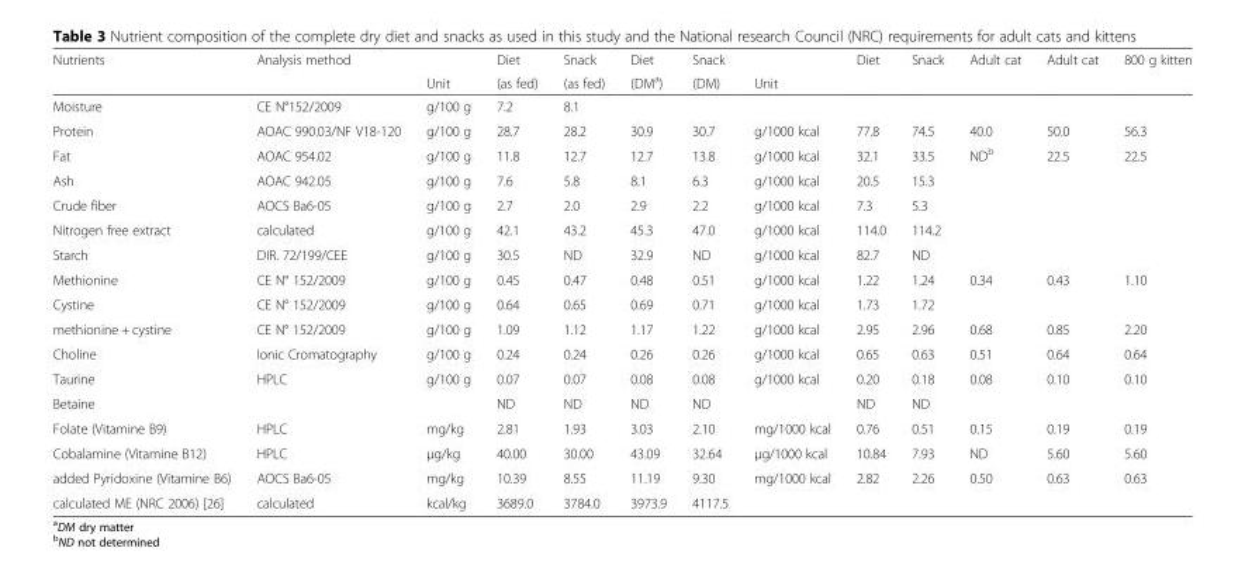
<table><thead><tr><td rowspan="2">Nutrients</td><td rowspan="2">Analysis method</td><td rowspan="2">Unit</td><td rowspan="2">Diet (as fed)</td><td rowspan="2">Snack (as fed)</td><td rowspan="2">Diet (DM<sup>a</sup>)</td><td rowspan="2">Snack (DM)</td><td rowspan="2">Unit</td><td rowspan="2">Diet</td><td rowspan="2">Snack</td><td rowspan="2">Adult cat</td><td rowspan="2">Adult cat</td><td rowspan="2">800 g kitten</td></tr><tr></tr></thead><tbody><tr><td>Moisture</td><td>CE N°152/2009</td><td>g/100 g</td><td>7.2</td><td>8.1</td><td></td><td></td><td></td><td></td><td></td><td></td><td></td><td></td></tr><tr><td>Protein</td><td>AOAC 990.03/NF V18-120</td><td>g/100 g</td><td>28.7</td><td>28.2</td><td>30.9</td><td>30.7</td><td>g/1000 kcal</td><td>77.8</td><td>74.5</td><td>40.0</td><td>50.0</td><td>56.3</td></tr><tr><td>Fat</td><td>AOAC 954.02</td><td>g/100 g</td><td>11.8</td><td>12.7</td><td>12.7</td><td>13.8</td><td>g/1000 kcal</td><td>32.1</td><td>33.5</td><td>ND<sup>b</sup></td><td>22.5</td><td>22.5</td></tr><tr><td>Ash</td><td>AOAC 942.05</td><td>g/100 g</td><td>7.6</td><td>5.8</td><td>8.1</td><td>6.3</td><td>g/1000 kcal</td><td>20.5</td><td>15.3</td><td></td><td></td><td></td></tr><tr><td>Crude fiber</td><td>AOCS Ba6-05</td><td>g/100 g</td><td>2.7</td><td>2.0</td><td>2.9</td><td>2.2</td><td>g/1000 kcal</td><td>7.3</td><td>5.3</td><td></td><td></td><td></td></tr><tr><td>Nitrogen free extract</td><td>calculated</td><td>g/100 g</td><td>42.1</td><td>43.2</td><td>45.3</td><td>47.0</td><td>g/1000 kcal</td><td>114.0</td><td>114.2</td><td></td><td></td><td></td></tr><tr><td>Starch</td><td>DIR. 72/199/CEE</td><td>g/100 g</td><td>30.5</td><td>ND</td><td>32.9</td><td>ND</td><td>g/1000 kcal</td><td>82.7</td><td>ND</td><td></td><td></td><td></td></tr><tr><td>Methionine</td><td>CE N° 152/2009</td><td>g/100 g</td><td>0.45</td><td>0.47</td><td>0.48</td><td>0.51</td><td>g/1000 kcal</td><td>1.22</td><td>1.24</td><td>0.34</td><td>0.43</td><td>1.10</td></tr><tr><td>Cystine</td><td>CE N° 152/2009</td><td>g/100 g</td><td>0.64</td><td>0.65</td><td>0.69</td><td>0.71</td><td>g/1000 kcal</td><td>1.73</td><td>1.72</td><td></td><td></td><td></td></tr><tr><td>methionine + cystine</td><td>CE N° 152/2009</td><td>g/100 g</td><td>1.09</td><td>1.12</td><td>1.17</td><td>1.22</td><td>g/1000 kcal</td><td>2.95</td><td>2.96</td><td>0.68</td><td>0.85</td><td>2.20</td></tr><tr><td>Choline</td><td>Ionic Cromatography</td><td>g/100 g</td><td>0.24</td><td>0.24</td><td>0.26</td><td>0.26</td><td>g/1000 kcal</td><td>0.65</td><td>0.63</td><td>0.51</td><td>0.64</td><td>0.64</td></tr><tr><td>Taurine</td><td>HPLC</td><td>g/100 g</td><td>0.07</td><td>0.07</td><td>0.08</td><td>0.08</td><td>g/1000 kcal</td><td>0.20</td><td>0.18</td><td>0.08</td><td>0.10</td><td>0.10</td></tr><tr><td>Betaine</td><td></td><td></td><td>ND</td><td>ND</td><td>ND</td><td>ND</td><td></td><td>ND</td><td>ND</td><td></td><td></td><td></td></tr><tr><td>Folate (Vitamine B9)</td><td>HPLC</td><td>mg/kg</td><td>2.81</td><td>1.93</td><td>3.03</td><td>2.10</td><td>mg/1000 kcal</td><td>0.76</td><td>0.51</td><td>0.15</td><td>0.19</td><td>0.19</td></tr><tr><td>Cobalamine (Vitamine B12)</td><td>HPLC</td><td>μg/kg</td><td>40.00</td><td>30.00</td><td>43.09</td><td>32.64</td><td>μg/1000 kcal</td><td>10.84</td><td>7.93</td><td>ND</td><td>5.60</td><td>5.60</td></tr><tr><td>added Pyridoxine (Vitamine B6)</td><td>AOCS Ba6-05</td><td>mg/kg</td><td>10.39</td><td>8.55</td><td>11.19</td><td>9.30</td><td>mg/1000 kcal</td><td>2.82</td><td>2.26</td><td>0.50</td><td>0.63</td><td>0.63</td></tr><tr><td>calculated ME (NRC 2006) [26]</td><td>calculated</td><td>kcal/kg</td><td>3689.0</td><td>3784.0</td><td>3973.9</td><td>4117.5</td><td></td><td></td><td></td><td></td><td></td><td></td></tr></tbody></table>